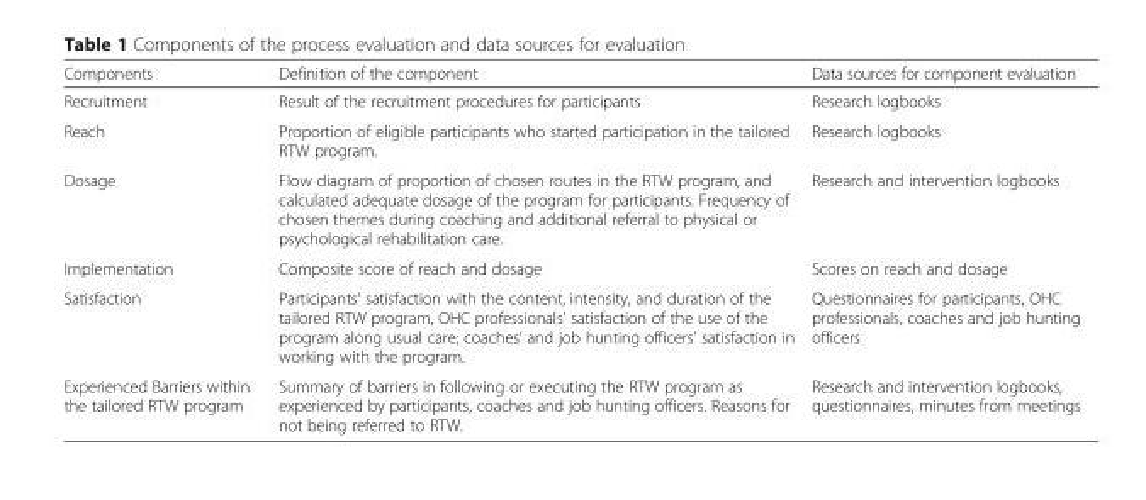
<table><thead><tr><td>Components</td><td>Definition of the component</td><td>Data sources for component evaluation</td></tr></thead><tbody><tr><td>Recruitment</td><td>Result of the recruitment procedures for participants</td><td>Research logbooks</td></tr><tr><td>Reach</td><td>Proportion of eligible participants who started participation in the tailored RTW program.</td><td>Research logbooks</td></tr><tr><td>Dosage</td><td>Flow diagram of proportion of chosen routes in the RTW program, and calculated adequate dosage of the program for participants. Frequency of chosen themes during coaching and additional referral to physical or psychological rehabilitation care.</td><td>Research and intervention logbooks</td></tr><tr><td>Implementation</td><td>Composite score of reach and dosage</td><td>Scores on reach and dosage</td></tr><tr><td>Satisfaction</td><td>Participants’ satisfaction with the content, intensity, and duration of the tailored RTW program, OHC professionals’ satisfaction of the use of the program along usual care; coaches’ and job hunting officers’ satisfaction in working with the program.</td><td>Questionnaires for participants, OHC professionals, coaches and job hunting officers</td></tr><tr><td>Experienced Barriers within the tailored RTW program</td><td>Summary of barriers in following or executing the RTW program as experienced by participants, coaches and job hunting officers. Reasons for not being referred to RTW.</td><td>Research and intervention logbooks, questionnaires, minutes from meetings</td></tr></tbody></table>